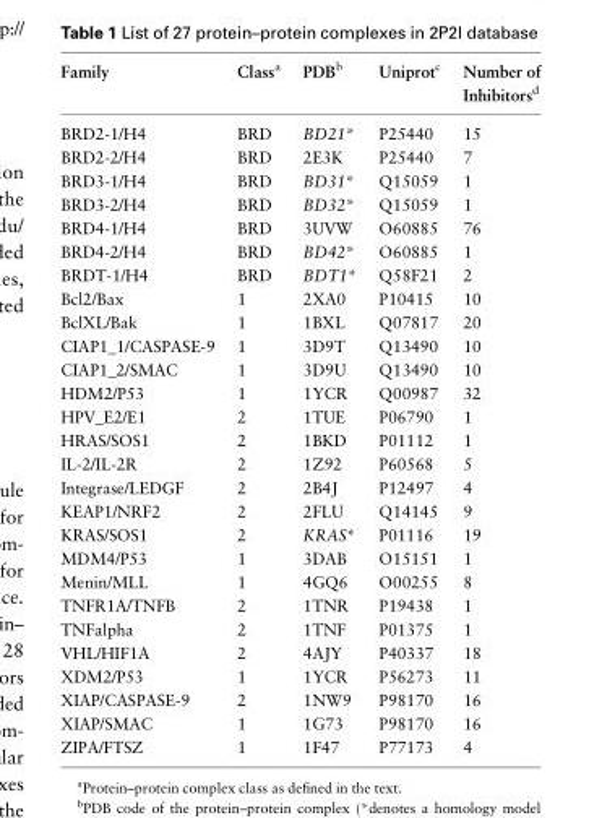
<table><thead><tr><td>Family</td><td>Class<sup>a</sup></td><td>PDB<sup>b</sup></td><td>Uniprot<sup>c</sup></td><td>Number of Inhibitors<sup>d</sup></td></tr></thead><tbody><tr><td>BRD2-1/H4</td><td>BRD</td><td>BD21*</td><td>P25440</td><td>15</td></tr><tr><td>BRD2-2/H4</td><td>BRD</td><td>2E3K</td><td>P25440</td><td>7</td></tr><tr><td>BRD3-1/H4</td><td>BRD</td><td>BD31*</td><td>Q15059</td><td>1</td></tr><tr><td>BRD3-2/H4</td><td>BRD</td><td>BD32*</td><td>Q15059</td><td>1</td></tr><tr><td>BRD4-1/H4</td><td>BRD</td><td>3UVW</td><td>O60885</td><td>76</td></tr><tr><td>BRD4-2/H4</td><td>BRD</td><td>BD42*</td><td>O60885</td><td>1</td></tr><tr><td>BRDT-1/H4</td><td>BRD</td><td>BDT1*</td><td>Q58F21</td><td>2</td></tr><tr><td>Bcl2/Bax</td><td>1</td><td>2XA0</td><td>P10415</td><td>10</td></tr><tr><td>BclXL/Bak</td><td>1</td><td>1BXL</td><td>Q07817</td><td>20</td></tr><tr><td>CIAP1_1/CASPASE-9</td><td>1</td><td>3D9T</td><td>Q13490</td><td>10</td></tr><tr><td>CIAP1_2/SMAC</td><td>1</td><td>3D9U</td><td>Q13490</td><td>10</td></tr><tr><td>HDM2/P53</td><td>1</td><td>1YCR</td><td>Q00987</td><td>32</td></tr><tr><td>HPV_E2/E1</td><td>2</td><td>1TUE</td><td>P06790</td><td>1</td></tr><tr><td>HRAS/SOS1</td><td>2</td><td>1BKD</td><td>P01112</td><td>1</td></tr><tr><td>IL-2/IL-2R</td><td>2</td><td>1Z92</td><td>P60568</td><td>5</td></tr><tr><td>Integrase/LEDGF</td><td>2</td><td>2B4J</td><td>P12497</td><td>4</td></tr><tr><td>KEAP1/NRF2</td><td>2</td><td>2FLU</td><td>Q14145</td><td>9</td></tr><tr><td>KRAS/SOS1</td><td>2</td><td>KRAS*</td><td>P01116</td><td>19</td></tr><tr><td>MDM4/P53</td><td>1</td><td>3DAB</td><td>O15151</td><td>1</td></tr><tr><td>Menin/MLL</td><td>1</td><td>4GQ6</td><td>O00255</td><td>8</td></tr><tr><td>TNFR1A/TNFB</td><td>2</td><td>1TNR</td><td>P19438</td><td>1</td></tr><tr><td>TNFalpha</td><td>2</td><td>1TNF</td><td>P01375</td><td>1</td></tr><tr><td>VHL/HIF1A</td><td>2</td><td>4AJY</td><td>P40337</td><td>18</td></tr><tr><td>XDM2/P53</td><td>1</td><td>1YCR</td><td>P56273</td><td>11</td></tr><tr><td>XIAP/CASPASE-9</td><td>2</td><td>1NW9</td><td>P98170</td><td>16</td></tr><tr><td>XIAP/SMAC</td><td>1</td><td>1G73</td><td>P98170</td><td>16</td></tr><tr><td>ZIPA/FTSZ</td><td>1</td><td>1F47</td><td>P77173</td><td>4</td></tr></tbody></table>